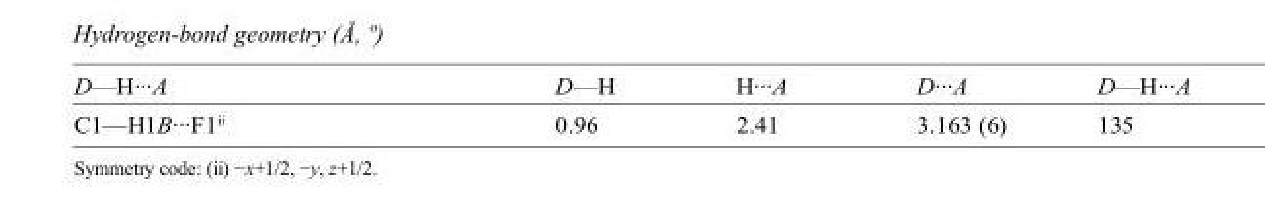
<table><tbody><tr><td>D—H···A</td><td>D—H</td><td>H···A</td><td>D···A</td><td>D—H···A</td></tr><tr><td>C1—H1B···F1<sup>ii</sup></td><td>0.96</td><td>2.41</td><td>3.163 (6)</td><td>135</td></tr></tbody></table>